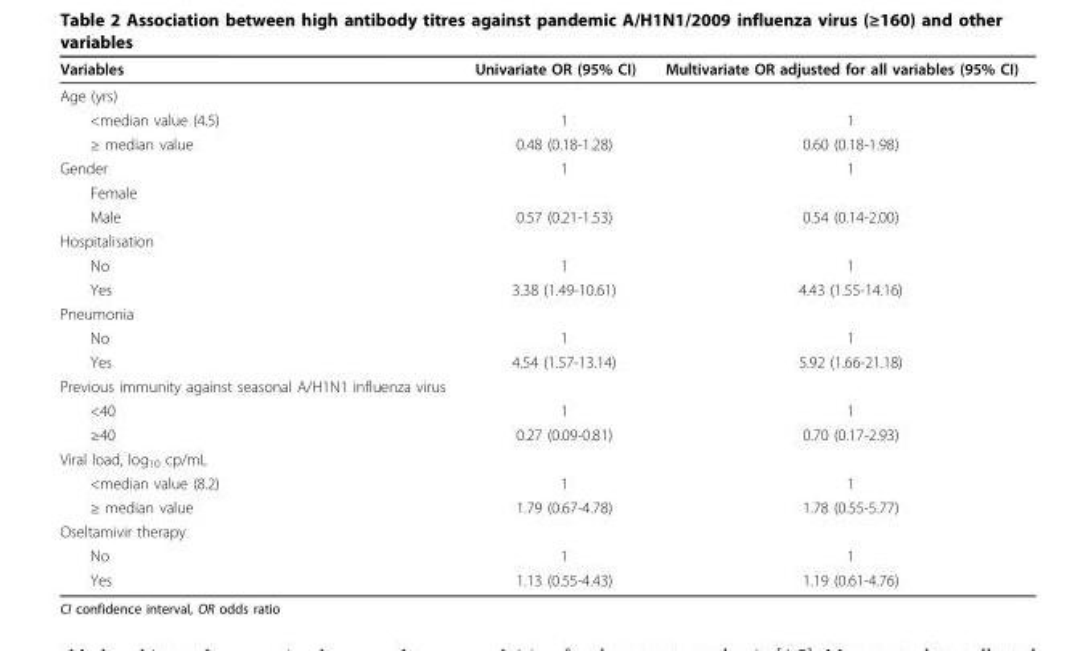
<table><thead><tr><td>Variables</td><td>Univariate OR (95% CI)</td><td>Multivariate OR adjusted for all variables (95% CI)</td></tr></thead><tbody><tr><td colspan="3">Age (yrs)</td></tr><tr><td>&lt;median value (4.5)</td><td>1</td><td>1</td></tr><tr><td>≥ median value</td><td>0.48 (0.18-1.28)</td><td>0.60 (0.18-1.98)</td></tr><tr><td>Gender</td><td>1</td><td>1</td></tr><tr><td colspan="3">Female</td></tr><tr><td>Male</td><td>0.57 (0.21-1.53)</td><td>0.54 (0.14-2.00)</td></tr><tr><td colspan="3">Hospitalisation</td></tr><tr><td>No</td><td>1</td><td>1</td></tr><tr><td>Yes</td><td>3.38 (1.49-10.61)</td><td>4.43 (1.55-14.16)</td></tr><tr><td colspan="3">Pneumonia</td></tr><tr><td>No</td><td>1</td><td>1</td></tr><tr><td>Yes</td><td>4.54 (1.57-13.14)</td><td>5.92 (1.66-21.18)</td></tr><tr><td colspan="3">Previous immunity against seasonal A/H1N1 influenza virus</td></tr><tr><td>&lt;40</td><td>1</td><td>1</td></tr><tr><td>≥40</td><td>0.27 (0.09-0.81)</td><td>0.70 (0.17-2.93)</td></tr><tr><td colspan="3">Viral load, log<sub>10</sub> cp/mL</td></tr><tr><td>&lt;median value (8.2)</td><td>1</td><td>1</td></tr><tr><td>≥ median value</td><td>1.79 (0.67-4.78)</td><td>1.78 (0.55-5.77)</td></tr><tr><td colspan="3">Oseltamivir therapy</td></tr><tr><td>No</td><td>1</td><td>1</td></tr><tr><td>Yes</td><td>1.13 (0.55-4.43)</td><td>1.19 (0.61-4.76)</td></tr></tbody></table>